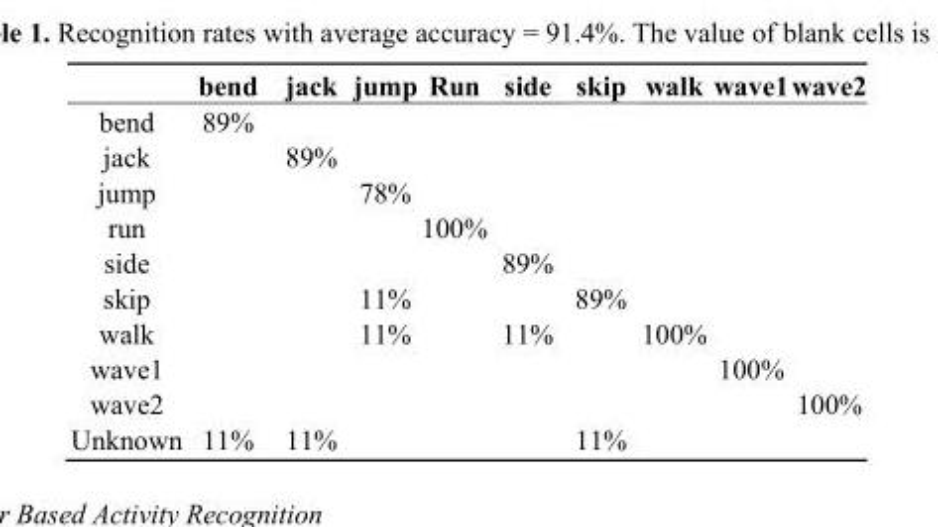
<table><thead><tr><td></td><td>bend</td><td>jack</td><td>jump</td><td>Run</td><td>side</td><td>skip</td><td>walk</td><td>wave1</td><td>wave2</td></tr></thead><tbody><tr><td>bend</td><td>89%</td><td></td><td></td><td></td><td></td><td></td><td></td><td></td><td></td></tr><tr><td>jack</td><td></td><td>89%</td><td></td><td></td><td></td><td></td><td></td><td></td><td></td></tr><tr><td>jump</td><td></td><td></td><td>78%</td><td></td><td></td><td></td><td></td><td></td><td></td></tr><tr><td>run</td><td></td><td></td><td></td><td>100%</td><td></td><td></td><td></td><td></td><td></td></tr><tr><td>side</td><td></td><td></td><td></td><td></td><td>89%</td><td></td><td></td><td></td><td></td></tr><tr><td>skip</td><td></td><td></td><td>11%</td><td></td><td></td><td>89%</td><td></td><td></td><td></td></tr><tr><td>walk</td><td></td><td></td><td>11%</td><td></td><td>11%</td><td></td><td>100%</td><td></td><td></td></tr><tr><td>wave1</td><td></td><td></td><td></td><td></td><td></td><td></td><td></td><td>100%</td><td></td></tr><tr><td>wave2</td><td></td><td></td><td></td><td></td><td></td><td></td><td></td><td></td><td>100%</td></tr><tr><td>Unknown</td><td>11%</td><td>11%</td><td></td><td></td><td></td><td>11%</td><td></td><td></td><td></td></tr></tbody></table>